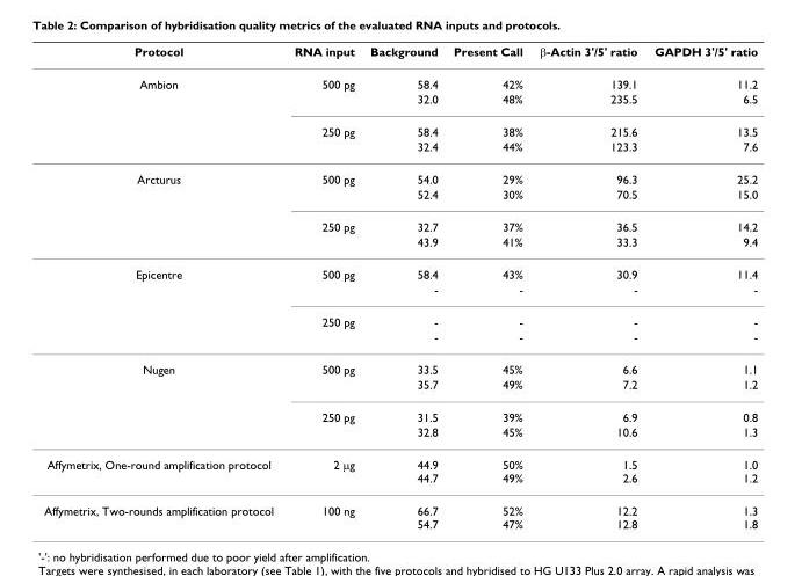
<table><thead><tr><td>Protocol</td><td>RNA input</td><td>Background</td><td>Present Call</td><td>β-Actin 3&#x27;/5&#x27; ratio</td><td>GAPDH 3&#x27;/5&#x27; ratio</td></tr></thead><tbody><tr><td rowspan="4">Ambion</td><td>500 pg</td><td>58.4</td><td>42%</td><td>139.1</td><td>11.2</td></tr><tr><td></td><td>32.0</td><td>48%</td><td>235.5</td><td>6.5</td></tr><tr><td>250 pg</td><td>58.4</td><td>38%</td><td>215.6</td><td>13.5</td></tr><tr><td></td><td>32.4</td><td>44%</td><td>123.3</td><td>7.6</td></tr><tr><td rowspan="4">Arcturus</td><td>500 pg</td><td>54.0</td><td>29%</td><td>96.3</td><td>25.2</td></tr><tr><td></td><td>52.4</td><td>30%</td><td>70.5</td><td>15.0</td></tr><tr><td>250 pg</td><td>32.7</td><td>37%</td><td>36.5</td><td>14.2</td></tr><tr><td></td><td>43.9</td><td>41%</td><td>33.3</td><td>9.4</td></tr><tr><td rowspan="4">Epicentre</td><td>500 pg</td><td>58.4</td><td>43%</td><td>30.9</td><td>11.4</td></tr><tr><td></td><td>-</td><td>-</td><td>-</td><td>-</td></tr><tr><td>250 pg</td><td>-</td><td>-</td><td>-</td><td>-</td></tr><tr><td></td><td>-</td><td>-</td><td>-</td><td>-</td></tr><tr><td rowspan="4">Nugen</td><td>500 pg</td><td>33.5</td><td>45%</td><td>6.6</td><td>1.1</td></tr><tr><td></td><td>35.7</td><td>49%</td><td>7.2</td><td>1.2</td></tr><tr><td>250 pg</td><td>31.5</td><td>39%</td><td>6.9</td><td>0.8</td></tr><tr><td></td><td>32.8</td><td>45%</td><td>10.6</td><td>1.3</td></tr><tr><td>Affymetrix, One-round amplification protocol</td><td>2 μg</td><td>44.9 44.7</td><td>50% 49%</td><td>1.5 2.6</td><td>1.0 1.2</td></tr><tr><td>Affymetrix, Two-rounds amplification protocol</td><td>100 ng</td><td>66.7 54.7</td><td>52% 47%</td><td>12.2 12.8</td><td>1.3 1.8</td></tr></tbody></table>